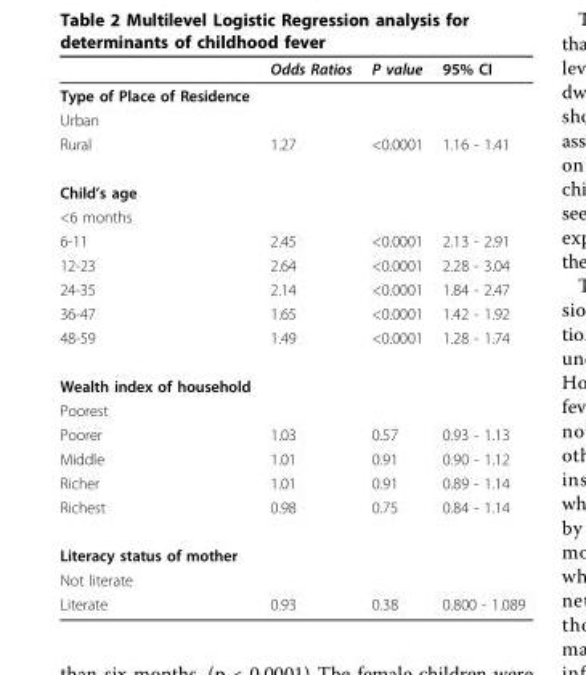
<table><thead><tr><td></td><td>Odds Ratios</td><td>P value</td><td>95% CI</td></tr></thead><tbody><tr><td colspan="4">Type of Place of Residence</td></tr><tr><td colspan="4">Urban</td></tr><tr><td>Rural</td><td>1.27</td><td>&lt;0.0001</td><td>1.16 - 1.41</td></tr><tr><td colspan="4">Child’s age</td></tr><tr><td colspan="4">&lt;6 months</td></tr><tr><td>6-11</td><td>2.45</td><td>&lt;0.0001</td><td>2.13 - 2.91</td></tr><tr><td>12-23</td><td>2.64</td><td>&lt;0.0001</td><td>2.28 - 3.04</td></tr><tr><td>24-35</td><td>2.14</td><td>&lt;0.0001</td><td>1.84 - 2.47</td></tr><tr><td>36-47</td><td>1.65</td><td>&lt;0.0001</td><td>1.42 - 1.92</td></tr><tr><td>48-59</td><td>1.49</td><td>&lt;0.0001</td><td>1.28 - 1.74</td></tr><tr><td colspan="4">Wealth index of household</td></tr><tr><td colspan="4">Poorest</td></tr><tr><td>Poorer</td><td>1.03</td><td>0.57</td><td>0.93 - 1.13</td></tr><tr><td>Middle</td><td>1.01</td><td>0.91</td><td>0.90 - 1.12</td></tr><tr><td>Richer</td><td>1.01</td><td>0.91</td><td>0.89 - 1.14</td></tr><tr><td>Richest</td><td>0.98</td><td>0.75</td><td>0.84 - 1.14</td></tr><tr><td colspan="4">Literacy status of mother</td></tr><tr><td colspan="4">Not literate</td></tr><tr><td>Literate</td><td>0.93</td><td>0.38</td><td>0.800 - 1.089</td></tr></tbody></table>